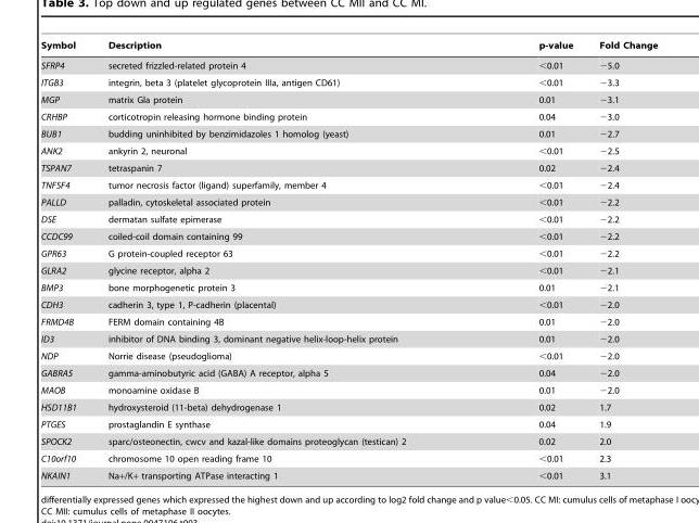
<table><thead><tr><td>Symbol</td><td>Description</td><td>p-value</td><td>Fold Change</td></tr></thead><tbody><tr><td>SFRP4</td><td>secreted frizzled-related protein 4</td><td>&lt;0.01</td><td>−5.0</td></tr><tr><td>ITGB3</td><td>integrin, beta 3 (platelet glycoprotein IIIa, antigen CD61)</td><td>&lt;0.01</td><td>−3.3</td></tr><tr><td>MGP</td><td>matrix Gla protein</td><td>0.01</td><td>−3.1</td></tr><tr><td>CRHBP</td><td>corticotropin releasing hormone binding protein</td><td>0.04</td><td>−3.0</td></tr><tr><td>BUB1</td><td>budding uninhibited by benzimidazoles 1 homolog (yeast)</td><td>0.01</td><td>−2.7</td></tr><tr><td>ANK2</td><td>ankyrin 2, neuronal</td><td>&lt;0.01</td><td>−2.5</td></tr><tr><td>TSPAN7</td><td>tetraspanin 7</td><td>0.02</td><td>−2.4</td></tr><tr><td>TNFSF4</td><td>tumor necrosis factor (ligand) superfamily, member 4</td><td>&lt;0.01</td><td>−2.4</td></tr><tr><td>PALLD</td><td>palladin, cytoskeletal associated protein</td><td>&lt;0.01</td><td>−2.2</td></tr><tr><td>DSE</td><td>dermatan sulfate epimerase</td><td>&lt;0.01</td><td>−2.2</td></tr><tr><td>CCDC99</td><td>coiled-coil domain containing 99</td><td>&lt;0.01</td><td>−2.2</td></tr><tr><td>GPR63</td><td>G protein-coupled receptor 63</td><td>&lt;0.01</td><td>−2.2</td></tr><tr><td>GLRA2</td><td>glycine receptor, alpha 2</td><td>&lt;0.01</td><td>−2.1</td></tr><tr><td>BMP3</td><td>bone morphogenetic protein 3</td><td>0.01</td><td>−2.1</td></tr><tr><td>CDH3</td><td>cadherin 3, type 1, P-cadherin (placental)</td><td>&lt;0.01</td><td>−2.0</td></tr><tr><td>FRMD4B</td><td>FERM domain containing 4B</td><td>0.01</td><td>−2.0</td></tr><tr><td>ID3</td><td>inhibitor of DNA binding 3, dominant negative helix-loop-helix protein</td><td>0.01</td><td>−2.0</td></tr><tr><td>NDP</td><td>Norrie disease (pseudoglioma)</td><td>&lt;0.01</td><td>−2.0</td></tr><tr><td>GABRA5</td><td>gamma-aminobutyric acid (GABA) A receptor, alpha 5</td><td>0.04</td><td>−2.0</td></tr><tr><td>MAOB</td><td>monoamine oxidase B</td><td>0.01</td><td>−2.0</td></tr><tr><td>HSD11B1</td><td>hydroxysteroid (11-beta) dehydrogenase 1</td><td>0.02</td><td>1.7</td></tr><tr><td>PTGES</td><td>prostaglandin E synthase</td><td>0.04</td><td>1.9</td></tr><tr><td>SPOCK2</td><td>sparc/osteonectin, cwcv and kazal-like domains proteoglycan (testican) 2</td><td>0.02</td><td>2.0</td></tr><tr><td>C10orf10</td><td>chromosome 10 open reading frame 10</td><td>&lt;0.01</td><td>2.3</td></tr><tr><td>NKAIN1</td><td>Na+/K+ transporting ATPase interacting 1</td><td>&lt;0.01</td><td>3.1</td></tr></tbody></table>